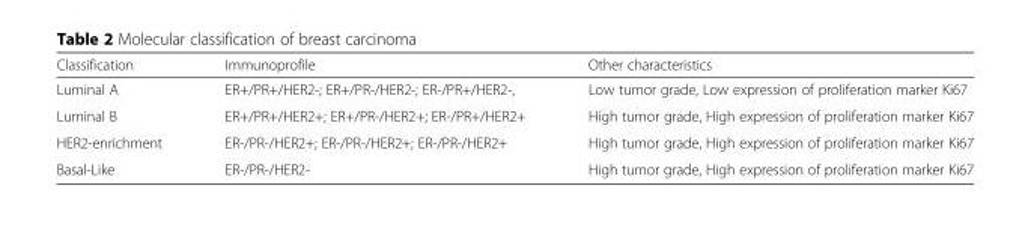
<table><thead><tr><td>Classification</td><td>Immunoprofile</td><td>Other characteristics</td></tr></thead><tbody><tr><td>Luminal A</td><td>ER+/PR+/HER2-; ER+/PR-/HER2-; ER-/PR+/HER2-,</td><td>Low tumor grade, Low expression of proliferation marker Ki67</td></tr><tr><td>Luminal B</td><td>ER+/PR+/HER2+; ER+/PR-/HER2+; ER-/PR+/HER2+</td><td>High tumor grade, High expression of proliferation marker Ki67</td></tr><tr><td>HER2-enrichment</td><td>ER-/PR-/HER2+; ER-/PR-/HER2+; ER-/PR-/HER2+</td><td>High tumor grade, High expression of proliferation marker Ki67</td></tr><tr><td>Basal-Like</td><td>ER-/PR-/HER2-</td><td>High tumor grade, High expression of proliferation marker Ki67</td></tr></tbody></table>